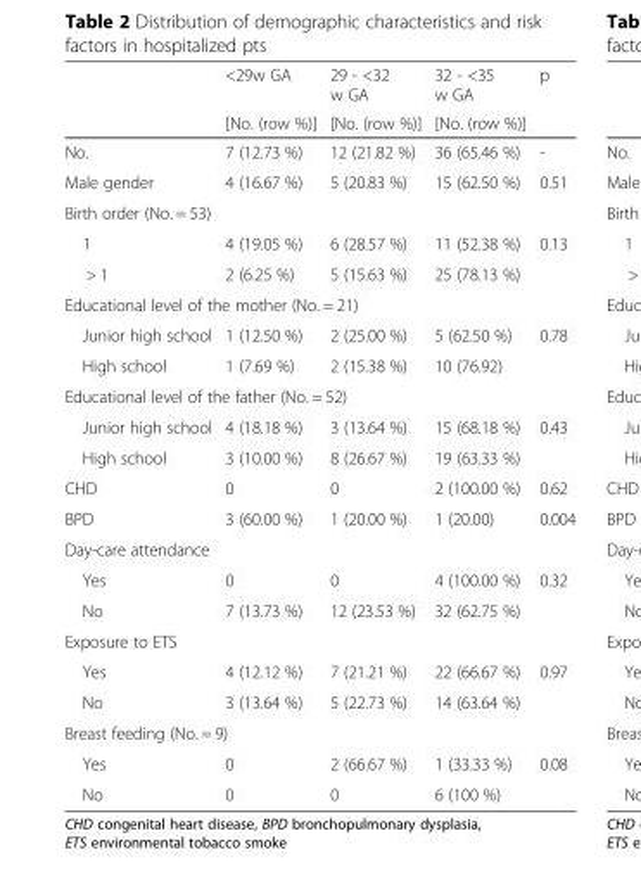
<table><thead><tr><td rowspan="2"></td><td rowspan="2">&lt;29w GA [No. (row %)]</td><td rowspan="2">29 - &lt;32 w GA [No. (row %)]</td><td rowspan="2">32 - &lt;35 w GA [No. (row %)]</td><td rowspan="2">p</td></tr><tr></tr></thead><tbody><tr><td>No.</td><td>7 (12.73 %)</td><td>12 (21.82 %)</td><td>36 (65.46 %)</td><td>-</td></tr><tr><td>Male gender</td><td>4 (16.67 %)</td><td>5 (20.83 %)</td><td>15 (62.50 %)</td><td>0.51</td></tr><tr><td colspan="5">Birth order (No. = 53)</td></tr><tr><td>1</td><td>4 (19.05 %)</td><td>6 (28.57 %)</td><td>11 (52.38 %)</td><td>0.13</td></tr><tr><td>&gt; 1</td><td>2 (6.25 %)</td><td>5 (15.63 %)</td><td>25 (78.13 %)</td><td></td></tr><tr><td colspan="5">Educational level of the mother (No. = 21)</td></tr><tr><td>Junior high school</td><td>1 (12.50 %)</td><td>2 (25.00 %)</td><td>5 (62.50 %)</td><td>0.78</td></tr><tr><td>High school</td><td>1 (7.69 %)</td><td>2 (15.38 %)</td><td>10 (76.92)</td><td></td></tr><tr><td colspan="5">Educational level of the father (No. = 52)</td></tr><tr><td>Junior high school</td><td>4 (18.18 %)</td><td>3 (13.64 %)</td><td>15 (68.18 %)</td><td>0.43</td></tr><tr><td>High school</td><td>3 (10.00 %)</td><td>8 (26.67 %)</td><td>19 (63.33 %)</td><td></td></tr><tr><td>CHD</td><td>0</td><td>0</td><td>2 (100.00 %)</td><td>0.62</td></tr><tr><td>BPD</td><td>3 (60.00 %)</td><td>1 (20.00 %)</td><td>1 (20.00)</td><td>0.004</td></tr><tr><td colspan="5">Day-care attendance</td></tr><tr><td>Yes</td><td>0</td><td>0</td><td>4 (100.00 %)</td><td>0.32</td></tr><tr><td>No</td><td>7 (13.73 %)</td><td>12 (23.53 %)</td><td>32 (62.75 %)</td><td></td></tr><tr><td colspan="5">Exposure to ETS</td></tr><tr><td>Yes</td><td>4 (12.12 %)</td><td>7 (21.21 %)</td><td>22 (66.67 %)</td><td>0.97</td></tr><tr><td>No</td><td>3 (13.64 %)</td><td>5 (22.73 %)</td><td>14 (63.64 %)</td><td></td></tr><tr><td colspan="5">Breast feeding (No. = 9)</td></tr><tr><td>Yes</td><td>0</td><td>2 (66.67 %)</td><td>1 (33.33 %)</td><td>0.08</td></tr><tr><td>No</td><td>0</td><td>0</td><td>6 (100 %)</td><td></td></tr></tbody></table>